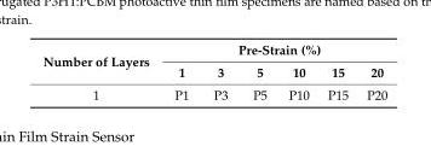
<table><thead><tr><td rowspan="2">Number of Layers</td><td colspan="6">Pre-Strain (%)</td></tr><tr><td>1</td><td>3</td><td>5</td><td>10</td><td>15</td><td>20</td></tr></thead><tbody><tr><td>1</td><td>P1</td><td>P3</td><td>P5</td><td>P10</td><td>P15</td><td>P20</td></tr></tbody></table>